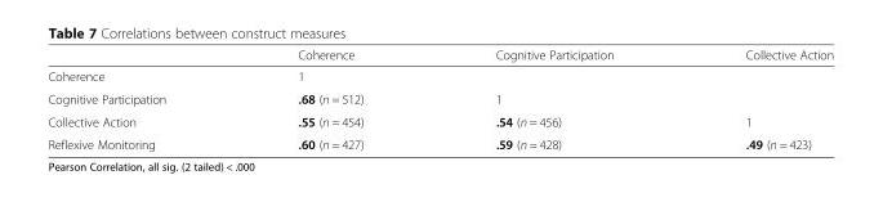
<table><thead><tr><td></td><td>Coherence</td><td>Cognitive Participation</td><td>Collective Action</td></tr></thead><tbody><tr><td>Coherence</td><td>1</td><td></td><td></td></tr><tr><td>Cognitive Participation</td><td>.68 (n = 512)</td><td>1</td><td></td></tr><tr><td>Collective Action</td><td>.55 (n = 454)</td><td>.54 (n = 456)</td><td>1</td></tr><tr><td>Reflexive Monitoring</td><td>.60 (n = 427)</td><td>.59 (n = 428)</td><td>.49 (n = 423)</td></tr></tbody></table>